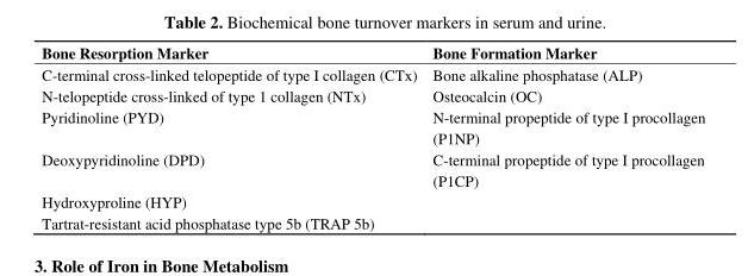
<table><thead><tr><td>Bone Resorption Marker</td><td>Bone Formation Marker</td></tr></thead><tbody><tr><td>C-terminal cross-linked telopeptide of type I collagen (CTx)</td><td>Bone alkaline phosphatase (ALP)</td></tr><tr><td>N-telopeptide cross-linked of type 1 collagen (NTx)</td><td>Osteocalcin (OC)</td></tr><tr><td>Pyridinoline (PYD)</td><td>N-terminal propeptide of type I procollagen (P1NP)</td></tr><tr><td>Deoxypyridinoline (DPD)</td><td>C-terminal propeptide of type I procollagen (P1CP)</td></tr><tr><td colspan="2">Hydroxyproline (HYP)</td></tr><tr><td>Tartrat-resistant acid phosphatase type 5b (TRAP 5b)</td><td></td></tr></tbody></table>